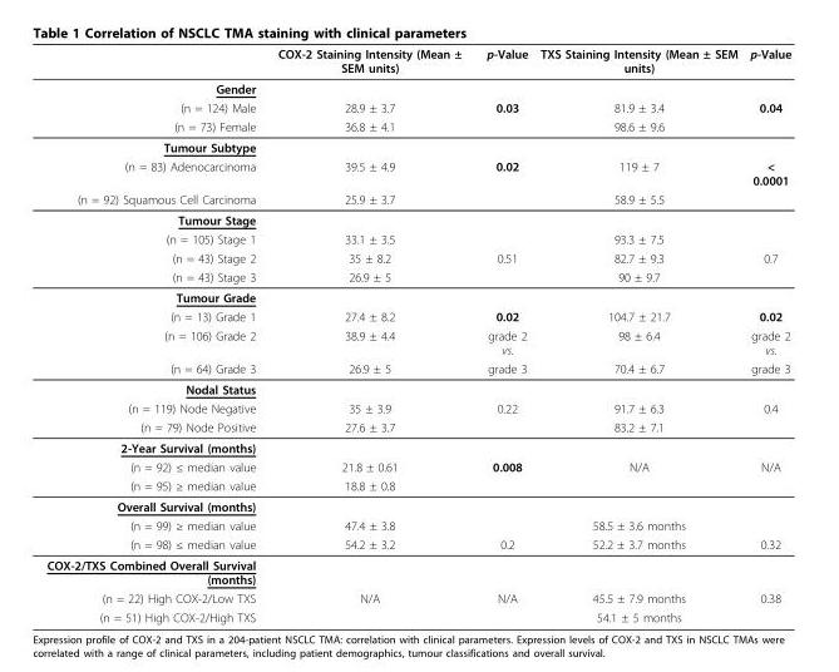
<table><thead><tr><td></td><td>COX-2 Staining Intensity (Mean ± SEM units)</td><td>p-Value</td><td>TXS Staining Intensity (Mean ± SEM units)</td><td>p-Value</td></tr></thead><tbody><tr><td colspan="5">Gender</td></tr><tr><td>(n = 124) Male</td><td>28.9 ± 3.7</td><td>0.03</td><td>81.9 ± 3.4</td><td>0.04</td></tr><tr><td>(n = 73) Female</td><td>36.8 ± 4.1</td><td></td><td>98.6 ± 9.6</td><td></td></tr><tr><td colspan="5">Tumour Subtype</td></tr><tr><td>(n = 83) Adenocarcinoma</td><td>39.5 ± 4.9</td><td>0.02</td><td>119 ± 7</td><td>&lt; 0.0001</td></tr><tr><td>(n = 92) Squamous Cell Carcinoma</td><td>25.9 ± 3.7</td><td></td><td>58.9 ± 5.5</td><td></td></tr><tr><td colspan="5">Tumour Stage</td></tr><tr><td>(n = 105) Stage 1</td><td>33.1 ± 3.5</td><td></td><td>93.3 ± 7.5</td><td></td></tr><tr><td>(n = 43) Stage 2</td><td>35 ± 8.2</td><td>0.51</td><td>82.7 ± 9.3</td><td>0.7</td></tr><tr><td>(n = 43) Stage 3</td><td>26.9 ± 5</td><td></td><td>90 ± 9.7</td><td></td></tr><tr><td colspan="5">Tumour Grade</td></tr><tr><td>(n = 13) Grade 1</td><td>27.4 ± 8.2</td><td>0.02</td><td>104.7 ± 21.7</td><td>0.02</td></tr><tr><td>(n = 106) Grade 2</td><td>38.9 ± 4.4</td><td>grade 2 vs.</td><td>98 ± 6.4</td><td>grade 2 vs.</td></tr><tr><td>(n = 64) Grade 3</td><td>26.9 ± 5</td><td>grade 3</td><td>70.4 ± 6.7</td><td>grade 3</td></tr><tr><td colspan="5">Nodal Status</td></tr><tr><td>(n = 119) Node Negative</td><td>35 ± 3.9</td><td>0.22</td><td>91.7 ± 6.3</td><td>0.4</td></tr><tr><td>(n = 79) Node Positive</td><td>27.6 ± 3.7</td><td></td><td>83.2 ± 7.1</td><td></td></tr><tr><td colspan="5">2-Year Survival (months)</td></tr><tr><td>(n = 92) ≤ median value</td><td>21.8 ± 0.61</td><td>0.008</td><td>N/A</td><td>N/A</td></tr><tr><td>(n = 95) ≥ median value</td><td>18.8 ± 0.8</td><td></td><td></td><td></td></tr><tr><td colspan="5">Overall Survival (months)</td></tr><tr><td>(n = 99) ≥ median value</td><td>47.4 ± 3.8</td><td></td><td>58.5 ± 3.6 months</td><td></td></tr><tr><td>(n = 98) ≤ median value</td><td>54.2 ± 3.2</td><td>0.2</td><td>52.2 ± 3.7 months</td><td>0.32</td></tr><tr><td colspan="5">COX-2/TXS Combined Overall Survival (months)</td></tr><tr><td>(n = 22) High COX-2/Low TXS</td><td>N/A</td><td>N/A</td><td>45.5 ± 7.9 months</td><td>0.38</td></tr><tr><td>(n = 51) High COX-2/High TXS</td><td></td><td></td><td>54.1 ± 5 months</td><td></td></tr></tbody></table>